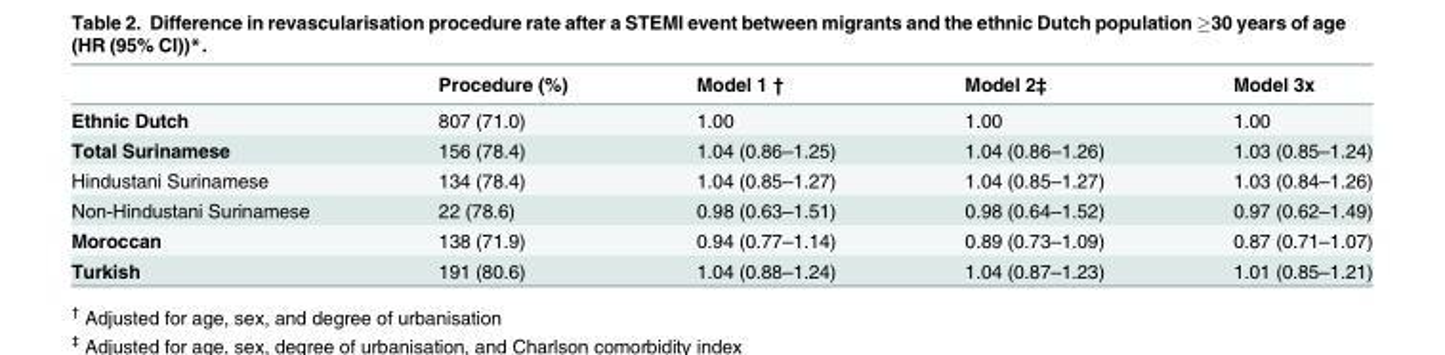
<table><thead><tr><td></td><td>Procedure (%)</td><td>Model 1 †</td><td>Model 2‡</td><td>Model 3x</td></tr></thead><tbody><tr><td>Ethnic Dutch</td><td>807 (71.0)</td><td>1.00</td><td>1.00</td><td>1.00</td></tr><tr><td>Total Surinamese</td><td>156 (78.4)</td><td>1.04 (0.86–1.25)</td><td>1.04 (0.86–1.26)</td><td>1.03 (0.85–1.24)</td></tr><tr><td>Hindustani Surinamese</td><td>134 (78.4)</td><td>1.04 (0.85–1.27)</td><td>1.04 (0.85–1.27)</td><td>1.03 (0.84–1.26)</td></tr><tr><td>Non-Hindustani Surinamese</td><td>22 (78.6)</td><td>0.98 (0.63–1.51)</td><td>0.98 (0.64–1.52)</td><td>0.97 (0.62–1.49)</td></tr><tr><td>Moroccan</td><td>138 (71.9)</td><td>0.94 (0.77–1.14)</td><td>0.89 (0.73–1.09)</td><td>0.87 (0.71–1.07)</td></tr><tr><td>Turkish</td><td>191 (80.6)</td><td>1.04 (0.88–1.24)</td><td>1.04 (0.87–1.23)</td><td>1.01 (0.85–1.21)</td></tr></tbody></table>